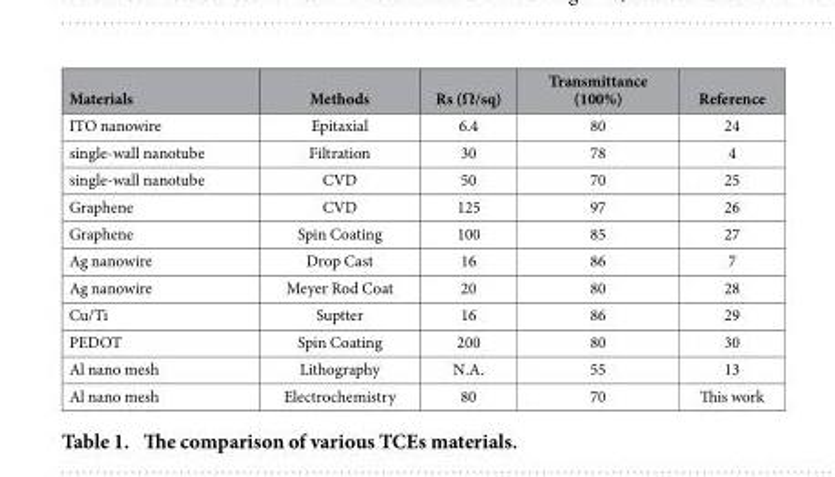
<table><thead><tr><td>Materials</td><td>Methods</td><td>Rs (Ω/sq)</td><td>Transmittance (100%)</td><td>Reference</td></tr></thead><tbody><tr><td>ITO nanowire</td><td>Epitaxial</td><td>6.4</td><td>80</td><td>24</td></tr><tr><td>single-wall nanotube</td><td>Filtration</td><td>30</td><td>78</td><td>4</td></tr><tr><td>single-wall nanotube</td><td>CVD</td><td>50</td><td>70</td><td>25</td></tr><tr><td>Graphene</td><td>CVD</td><td>125</td><td>97</td><td>26</td></tr><tr><td>Graphene</td><td>Spin Coating</td><td>100</td><td>85</td><td>27</td></tr><tr><td>Ag nanowire</td><td>Drop Cast</td><td>16</td><td>86</td><td>7</td></tr><tr><td>Ag nanowire</td><td>Meyer Rod Coat</td><td>20</td><td>80</td><td>28</td></tr><tr><td>Cu/Ti</td><td>Suptter</td><td>16</td><td>86</td><td>29</td></tr><tr><td>PEDOT</td><td>Spin Coating</td><td>200</td><td>80</td><td>30</td></tr><tr><td>Al nano mesh</td><td>Lithography</td><td>N.A.</td><td>55</td><td>13</td></tr><tr><td>Al nano mesh</td><td>Electrochemistry</td><td>80</td><td>70</td><td>This work</td></tr></tbody></table>